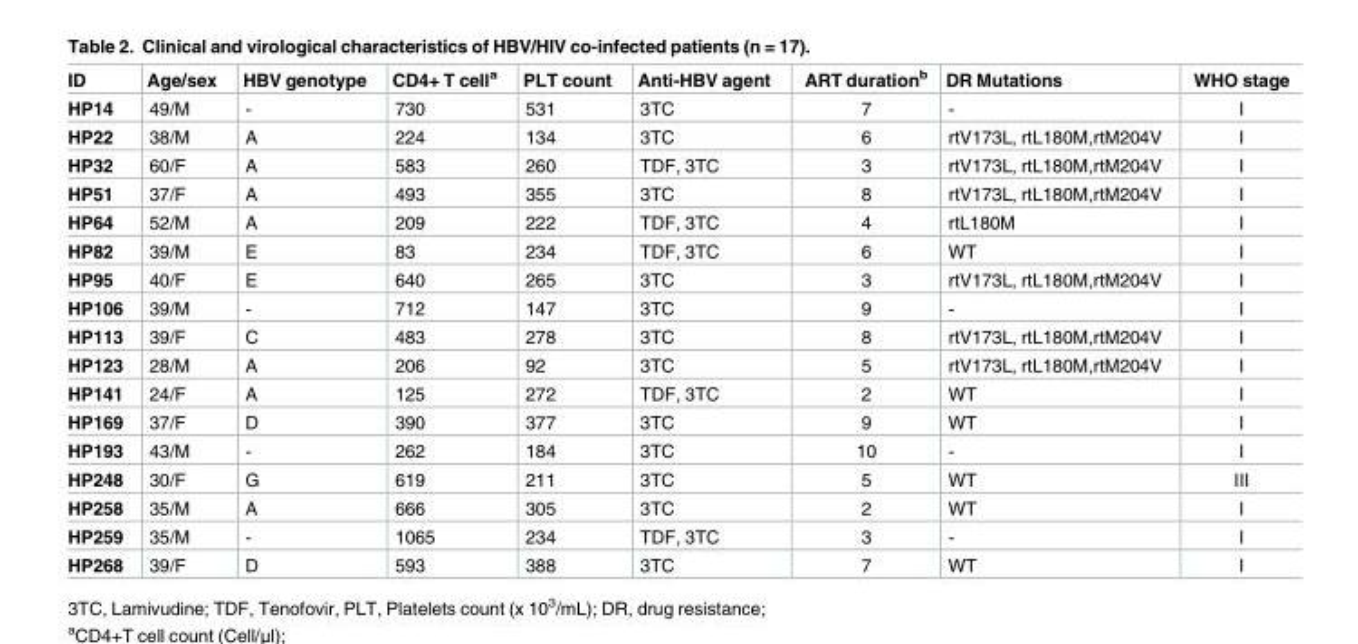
<table><thead><tr><td>ID</td><td>Age/sex</td><td>HBV genotype</td><td>CD4+ T cell<sup>a</sup></td><td>PLT count</td><td>Anti-HBV agent</td><td>ART duration<sup>b</sup></td><td>DR Mutations</td><td>WHO stage</td></tr></thead><tbody><tr><td>HP14</td><td>49/M</td><td>-</td><td>730</td><td>531</td><td>3TC</td><td>7</td><td>-</td><td>I</td></tr><tr><td>HP22</td><td>38/M</td><td>A</td><td>224</td><td>134</td><td>3TC</td><td>6</td><td>rtV173L, rtL180M,rtM204V</td><td>I</td></tr><tr><td>HP32</td><td>60/F</td><td>A</td><td>583</td><td>260</td><td>TDF, 3TC</td><td>3</td><td>rtV173L, rtL180M,rtM204V</td><td>I</td></tr><tr><td>HP51</td><td>37/F</td><td>A</td><td>493</td><td>355</td><td>3TC</td><td>8</td><td>rtV173L, rtL180M,rtM204V</td><td>I</td></tr><tr><td>HP64</td><td>52/M</td><td>A</td><td>209</td><td>222</td><td>TDF, 3TC</td><td>4</td><td>rtL180M</td><td>I</td></tr><tr><td>HP82</td><td>39/M</td><td>E</td><td>83</td><td>234</td><td>TDF, 3TC</td><td>6</td><td>WT</td><td>I</td></tr><tr><td>HP95</td><td>40/F</td><td>E</td><td>640</td><td>265</td><td>3TC</td><td>3</td><td>rtV173L, rtL180M,rtM204V</td><td>I</td></tr><tr><td>HP106</td><td>39/M</td><td>-</td><td>712</td><td>147</td><td>3TC</td><td>9</td><td>-</td><td>I</td></tr><tr><td>HP113</td><td>39/F</td><td>C</td><td>483</td><td>278</td><td>3TC</td><td>8</td><td>rtV173L, rtL180M,rtM204V</td><td>I</td></tr><tr><td>HP123</td><td>28/M</td><td>A</td><td>206</td><td>92</td><td>3TC</td><td>5</td><td>rtV173L, rtL180M,rtM204V</td><td>I</td></tr><tr><td>HP141</td><td>24/F</td><td>A</td><td>125</td><td>272</td><td>TDF, 3TC</td><td>2</td><td>WT</td><td>I</td></tr><tr><td>HP169</td><td>37/F</td><td>D</td><td>390</td><td>377</td><td>3TC</td><td>9</td><td>WT</td><td>I</td></tr><tr><td>HP193</td><td>43/M</td><td>-</td><td>262</td><td>184</td><td>3TC</td><td>10</td><td>-</td><td>I</td></tr><tr><td>HP248</td><td>30/F</td><td>G</td><td>619</td><td>211</td><td>3TC</td><td>5</td><td>WT</td><td>III</td></tr><tr><td>HP258</td><td>35/M</td><td>A</td><td>666</td><td>305</td><td>3TC</td><td>2</td><td>WT</td><td>I</td></tr><tr><td>HP259</td><td>35/M</td><td>-</td><td>1065</td><td>234</td><td>TDF, 3TC</td><td>3</td><td>-</td><td>I</td></tr><tr><td>HP268</td><td>39/F</td><td>D</td><td>593</td><td>388</td><td>3TC</td><td>7</td><td>WT</td><td>I</td></tr></tbody></table>